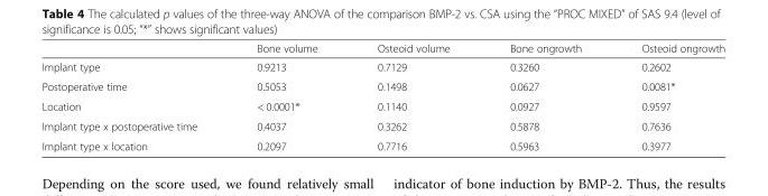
<table><thead><tr><td></td><td>Bone volume</td><td>Osteoid volume</td><td>Bone ongrowth</td><td>Osteoid ongrowth</td></tr></thead><tbody><tr><td>Implant type</td><td>0.9213</td><td>0.7129</td><td>0.3260</td><td>0.2602</td></tr><tr><td>Postoperative time</td><td>0.5053</td><td>0.1498</td><td>0.0627</td><td>0.0081*</td></tr><tr><td>Location</td><td>&lt; 0.0001*</td><td>0.1140</td><td>0.0927</td><td>0.9597</td></tr><tr><td>Implant type x postoperative time</td><td>0.4037</td><td>0.3262</td><td>0.5878</td><td>0.7636</td></tr><tr><td>Implant type x location</td><td>0.2097</td><td>0.7716</td><td>0.5963</td><td>0.3977</td></tr></tbody></table>